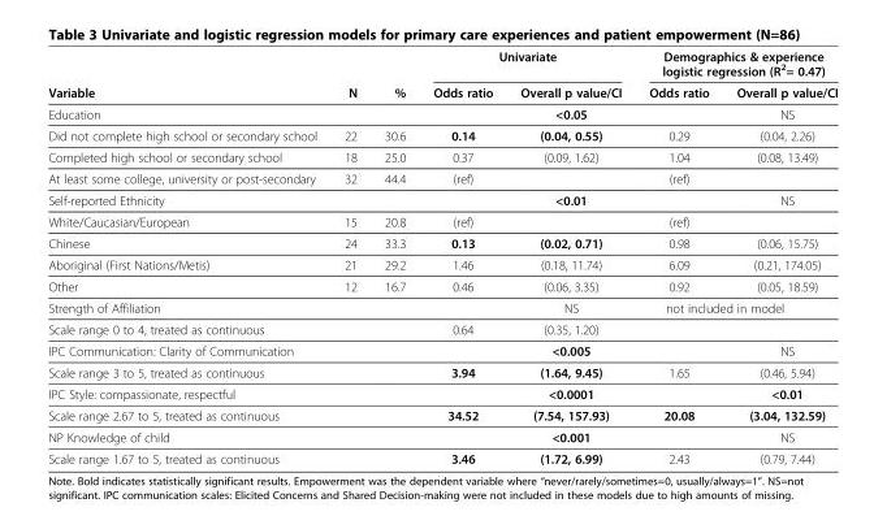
<table><thead><tr><td rowspan="2">Variable</td><td rowspan="2">N</td><td rowspan="2">%</td><td colspan="2">Univariate</td><td colspan="2">Demographics &amp; experience logistic regression (R<sup>2</sup>= 0.47)</td></tr><tr><td>Odds ratio</td><td>Overall p value/CI</td><td>Odds ratio</td><td>Overall p value/CI</td></tr></thead><tbody><tr><td>Education</td><td></td><td></td><td></td><td>&lt;0.05</td><td></td><td>NS</td></tr><tr><td>Did not complete high school or secondary school</td><td>22</td><td>30.6</td><td>0.14</td><td>(0.04, 0.55)</td><td>0.29</td><td>(0.04, 2.26)</td></tr><tr><td>Completed high school or secondary school</td><td>18</td><td>25.0</td><td>0.37</td><td>(0.09, 1.62)</td><td>1.04</td><td>(0.08, 13.49)</td></tr><tr><td>At least some college, university or post-secondary</td><td>32</td><td>44.4</td><td>(ref)</td><td></td><td>(ref)</td><td></td></tr><tr><td>Self-reported Ethnicity</td><td></td><td></td><td></td><td>&lt;0.01</td><td></td><td>NS</td></tr><tr><td>White/Caucasian/European</td><td>15</td><td>20.8</td><td>(ref)</td><td></td><td>(ref)</td><td></td></tr><tr><td>Chinese</td><td>24</td><td>33.3</td><td>0.13</td><td>(0.02, 0.71)</td><td>0.98</td><td>(0.06, 15.75)</td></tr><tr><td>Aboriginal (First Nations/Metis)</td><td>21</td><td>29.2</td><td>1.46</td><td>(0.18, 11.74)</td><td>6.09</td><td>(0.21, 174.05)</td></tr><tr><td>Other</td><td>12</td><td>16.7</td><td>0.46</td><td>(0.06, 3.35)</td><td>0.92</td><td>(0.05, 18.59)</td></tr><tr><td>Strength of Affiliation</td><td></td><td></td><td></td><td>NS</td><td colspan="2">not included in model</td></tr><tr><td>Scale range 0 to 4, treated as continuous</td><td></td><td></td><td>0.64</td><td>(0.35, 1.20)</td><td></td><td></td></tr><tr><td>IPC Communication: Clarity of Communication</td><td></td><td></td><td></td><td>&lt;0.005</td><td></td><td>NS</td></tr><tr><td>Scale range 3 to 5, treated as continuous</td><td></td><td></td><td>3.94</td><td>(1.64, 9.45)</td><td>1.65</td><td>(0.46, 5.94)</td></tr><tr><td>IPC Style: compassionate, respectful</td><td></td><td></td><td></td><td>&lt;0.0001</td><td></td><td>&lt;0.01</td></tr><tr><td>Scale range 2.67 to 5, treated as continuous</td><td></td><td></td><td>34.52</td><td>(7.54, 157.93)</td><td>20.08</td><td>(3.04, 132.59)</td></tr><tr><td>NP Knowledge of child</td><td></td><td></td><td></td><td>&lt;0.001</td><td></td><td>NS</td></tr><tr><td>Scale range 1.67 to 5, treated as continuous</td><td></td><td></td><td>3.46</td><td>(1.72, 6.99)</td><td>2.43</td><td>(0.79, 7.44)</td></tr></tbody></table>